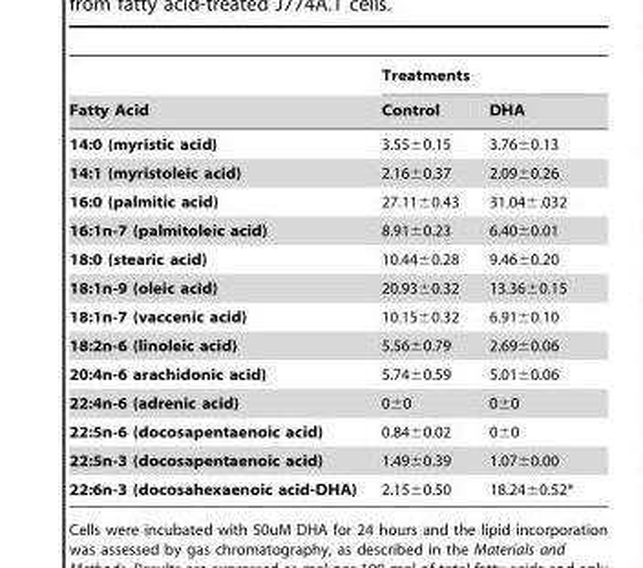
<table><thead><tr><td rowspan="2">Fatty Acid</td><td colspan="2">Treatments</td></tr><tr><td>Control</td><td>DHA</td></tr></thead><tbody><tr><td>14:0 (myristic acid)</td><td>3.55±0.15</td><td>3.76±0.13</td></tr><tr><td>14:1 (myristoleic acid)</td><td>2.16±0.37</td><td>2.09±0.26</td></tr><tr><td>16:0 (palmitic acid)</td><td>27.11±0.43</td><td>31.04±.032</td></tr><tr><td>16:1n-7 (palmitoleic acid)</td><td>8.91±0.23</td><td>6.40±0.01</td></tr><tr><td>18:0 (stearic acid)</td><td>10.44±0.28</td><td>9.46±0.20</td></tr><tr><td>18:1n-9 (oleic acid)</td><td>20.93±0.32</td><td>13.36±0.15</td></tr><tr><td>18:1n-7 (vaccenic acid)</td><td>10.15±0.32</td><td>6.91±0.10</td></tr><tr><td>18:2n-6 (linoleic acid)</td><td>5.56±0.79</td><td>2.69±0.06</td></tr><tr><td>20:4n-6 arachidonic acid)</td><td>5.74±0.59</td><td>5.01±0.06</td></tr><tr><td>22:4n-6 (adrenic acid)</td><td>0±0</td><td>0±0</td></tr><tr><td>22:5n-6 (docosapentaenoic acid)</td><td>0.84±0.02</td><td>0±0</td></tr><tr><td>22:5n-3 (docosapentaenoic acid)</td><td>1.49±0.39</td><td>1.07±0.00</td></tr><tr><td>22:6n-3 (docosahexaenoic acid-DHA)</td><td>2.15±0.50</td><td>18.24±0.52*</td></tr></tbody></table>